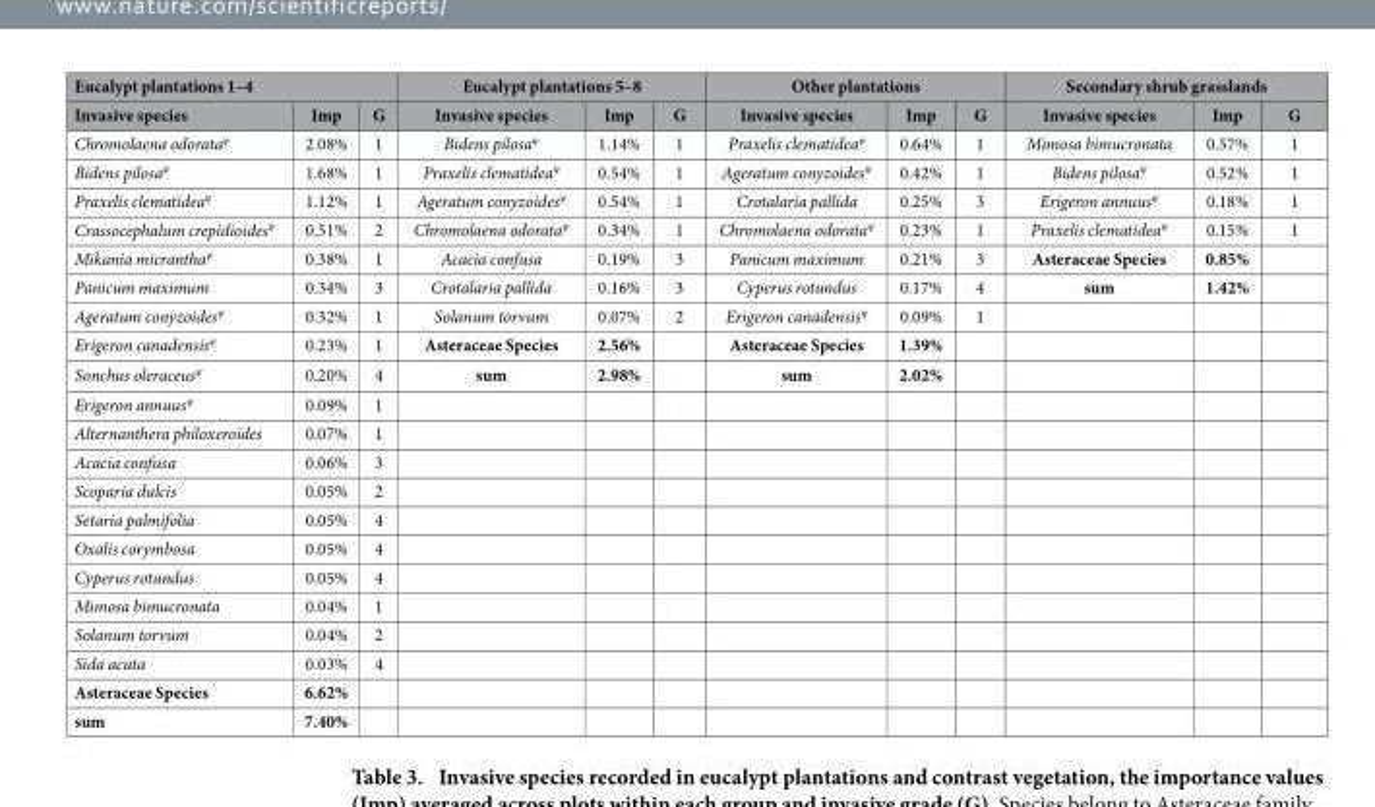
<table><thead><tr><td colspan="3">Eucalypt plantations 1–4</td><td colspan="3">Eucalypt plantations 5–8</td><td colspan="3">Other plantations</td><td colspan="3">Secondary shrub grasslands</td></tr><tr><td>Invasive species</td><td>Imp</td><td>G</td><td>Invasive species</td><td>Imp</td><td>G</td><td>Invasive species</td><td>Imp</td><td>G</td><td>Invasive species</td><td>Imp</td><td>G</td></tr></thead><tbody><tr><td>Chromolaena odorata<sup>ψ</sup></td><td>2.08%</td><td>1</td><td>Bidens pilosaψ</td><td>1.14%</td><td>1</td><td>Praxelis clematidea<sup>ψ</sup></td><td>0.64%</td><td>1</td><td>Mimosa bimucronata</td><td>0.57%</td><td>1</td></tr><tr><td>Bidens pilosaψ</td><td>1.68%</td><td>1</td><td>Praxelis clematidea<sup>ψ</sup></td><td>0.54%</td><td>1</td><td>Ageratum conyzoides<sup>ψ</sup></td><td>0.42%</td><td>1</td><td>Bidens pilosaψ</td><td>0.52%</td><td>1</td></tr><tr><td>Praxelis clematidea<sup>ψ</sup></td><td>1.12%</td><td>1</td><td>Ageratum conyzoides<sup>ψ</sup></td><td>0.54%</td><td>1</td><td>Crotalaria pallida</td><td>0.25%</td><td>3</td><td>Erigeron annuus<sup>ψ</sup></td><td>0.18%</td><td>1</td></tr><tr><td>Crassocephalum crepidioides<sup>ψ</sup></td><td>0.51%</td><td>2</td><td>Chromolaena odorata<sup>ψ</sup></td><td>0.34%</td><td>1</td><td>Chromolaena odorata<sup>ψ</sup></td><td>0.23%</td><td>1</td><td>Praxelis clematidea<sup>ψ</sup></td><td>0.15%</td><td>1</td></tr><tr><td>Mikania micrantha<sup>ψ</sup></td><td>0.38%</td><td>1</td><td>Acacia confusa</td><td>0.19%</td><td>3</td><td>Panicum maximum</td><td>0.21%</td><td>3</td><td>Asteraceae Species</td><td>0.85%</td><td></td></tr><tr><td>Panicum maximum</td><td>0.34%</td><td>3</td><td>Crotalaria pallida</td><td>0.16%</td><td>3</td><td>Cyperus rotundus</td><td>0.17%</td><td>4</td><td>sum</td><td>1.42%</td><td></td></tr><tr><td>Ageratum conyzoides<sup>ψ</sup></td><td>0.32%</td><td>1</td><td>Solanum torvum</td><td>0.07%</td><td>2</td><td>Erigeron canadensis<sup>ψ</sup></td><td>0.09%</td><td>1</td><td></td><td></td><td></td></tr><tr><td>Erigeron canadensis<sup>ψ</sup></td><td>0.23%</td><td>1</td><td>Asteraceae Species</td><td>2.56%</td><td></td><td>Asteraceae Species</td><td>1.39%</td><td></td><td></td><td></td><td></td></tr><tr><td>Sonchus oleraceus<sup>ψ</sup></td><td>0.20%</td><td>4</td><td>sum</td><td>2.98%</td><td></td><td>sum</td><td>2.02%</td><td></td><td></td><td></td><td></td></tr><tr><td>Erigeron annuus<sup>ψ</sup></td><td>0.09%</td><td>1</td><td></td><td></td><td></td><td></td><td></td><td></td><td></td><td></td><td></td></tr><tr><td>Alternanthera philoxeroides</td><td>0.07%</td><td>1</td><td></td><td></td><td></td><td></td><td></td><td></td><td></td><td></td><td></td></tr><tr><td>Acacia confusa</td><td>0.06%</td><td>3</td><td></td><td></td><td></td><td></td><td></td><td></td><td></td><td></td><td></td></tr><tr><td>Scoparia dulcis</td><td>0.05%</td><td>2</td><td></td><td></td><td></td><td></td><td></td><td></td><td></td><td></td><td></td></tr><tr><td>Setaria palmifolia</td><td>0.05%</td><td>4</td><td></td><td></td><td></td><td></td><td></td><td></td><td></td><td></td><td></td></tr><tr><td>Oxalis corymbosa</td><td>0.05%</td><td>4</td><td></td><td></td><td></td><td></td><td></td><td></td><td></td><td></td><td></td></tr><tr><td>Cyperus rotundus</td><td>0.05%</td><td>4</td><td></td><td></td><td></td><td></td><td></td><td></td><td></td><td></td><td></td></tr><tr><td>Mimosa bimucronata</td><td>0.04%</td><td>1</td><td></td><td></td><td></td><td></td><td></td><td></td><td></td><td></td><td></td></tr><tr><td>Solanum torvum</td><td>0.04%</td><td>2</td><td></td><td></td><td></td><td></td><td></td><td></td><td></td><td></td><td></td></tr><tr><td>Sida acuta</td><td>0.03%</td><td>4</td><td></td><td></td><td></td><td></td><td></td><td></td><td></td><td></td><td></td></tr><tr><td>Asteraceae Species</td><td>6.62%</td><td></td><td></td><td></td><td></td><td></td><td></td><td></td><td></td><td></td><td></td></tr><tr><td>sum</td><td>7.40%</td><td></td><td></td><td></td><td></td><td></td><td></td><td></td><td></td><td></td><td></td></tr></tbody></table>